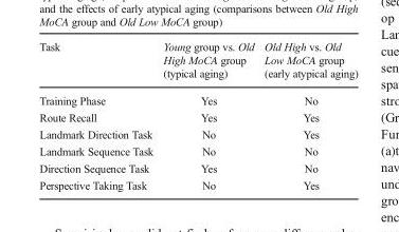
<table><thead><tr><td>Task</td><td>Young group vs. Old High MoCA group (typical aging)</td><td>Old High vs. Old Low MoCA group (early atypical aging)</td></tr></thead><tbody><tr><td>Training Phase</td><td>Yes</td><td>No</td></tr><tr><td>Route Recall</td><td>Yes</td><td>Yes</td></tr><tr><td>Landmark Direction Task</td><td>No</td><td>Yes</td></tr><tr><td>Landmark Sequence Task</td><td>No</td><td>No</td></tr><tr><td>Direction Sequence Task</td><td>Yes</td><td>No</td></tr><tr><td>Perspective Taking Task</td><td>No</td><td>Yes</td></tr></tbody></table>